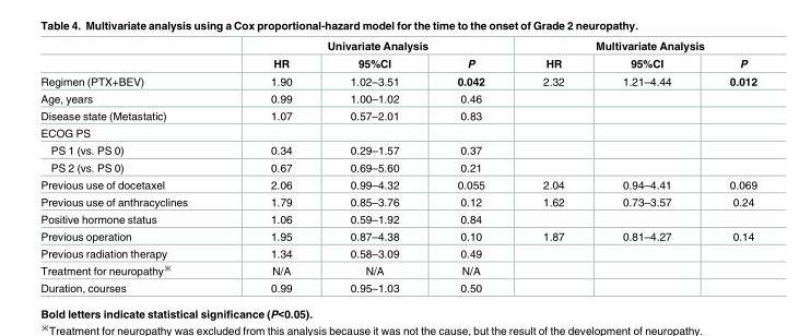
<table><thead><tr><td rowspan="2"></td><td colspan="3">Univariate Analysis</td><td colspan="3">Multivariate Analysis</td></tr><tr><td>HR</td><td>95%CI</td><td>P</td><td>HR</td><td>95%CI</td><td>P</td></tr></thead><tbody><tr><td>Regimen (PTX+BEV)</td><td>1.90</td><td>1.02–3.51</td><td>0.042</td><td>2.32</td><td>1.21–4.44</td><td>0.012</td></tr><tr><td>Age, years</td><td>0.99</td><td>1.00–1.02</td><td>0.46</td><td></td><td></td><td></td></tr><tr><td>Disease state (Metastatic)</td><td>1.07</td><td>0.57–2.01</td><td>0.83</td><td></td><td></td><td></td></tr><tr><td colspan="7">ECOG PS</td></tr><tr><td>PS 1 (vs. PS 0)</td><td>0.34</td><td>0.29–1.57</td><td>0.37</td><td></td><td></td><td></td></tr><tr><td>PS 2 (vs. PS 0)</td><td>0.67</td><td>0.69–5.60</td><td>0.21</td><td></td><td></td><td></td></tr><tr><td>Previous use of docetaxel</td><td>2.06</td><td>0.99–4.32</td><td>0.055</td><td>2.04</td><td>0.94–4.41</td><td>0.069</td></tr><tr><td>Previous use of anthracyclines</td><td>1.79</td><td>0.85–3.76</td><td>0.12</td><td>1.62</td><td>0.73–3.57</td><td>0.24</td></tr><tr><td>Positive hormone status</td><td>1.06</td><td>0.59–1.92</td><td>0.84</td><td></td><td></td><td></td></tr><tr><td>Previous operation</td><td>1.95</td><td>0.87–4.38</td><td>0.10</td><td>1.87</td><td>0.81–4.27</td><td>0.14</td></tr><tr><td>Previous radiation therapy</td><td>1.34</td><td>0.58–3.09</td><td>0.49</td><td></td><td></td><td></td></tr><tr><td>Treatment for neuropathy<sup>※</sup></td><td>N/A</td><td>N/A</td><td>N/A</td><td></td><td></td><td></td></tr><tr><td>Duration, courses</td><td>0.99</td><td>0.95–1.03</td><td>0.50</td><td></td><td></td><td></td></tr></tbody></table>